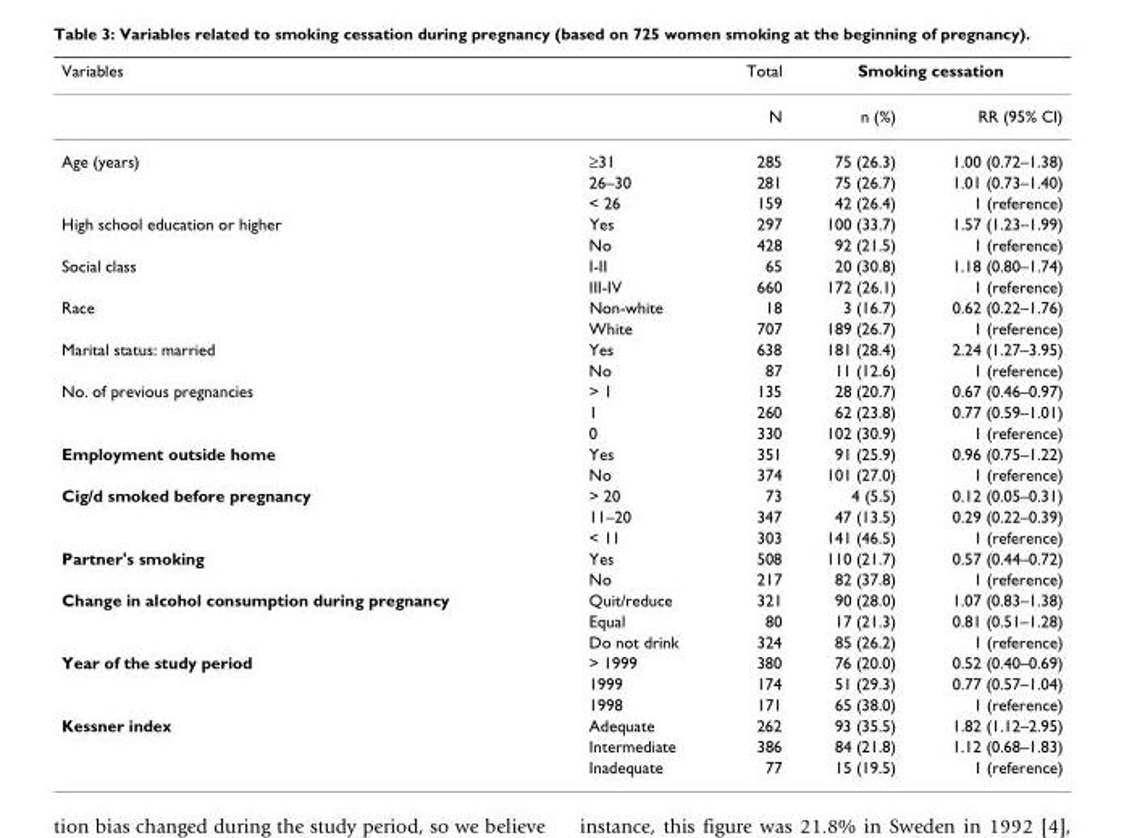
<table><thead><tr><td rowspan="2">Variables</td><td rowspan="2"></td><td rowspan="2">Total N</td><td colspan="2">Smoking cessation</td></tr><tr><td>n (%)</td><td>RR (95% CI)</td></tr></thead><tbody><tr><td rowspan="3">Age (years)</td><td>≥31</td><td>285</td><td>75 (26.3)</td><td>1.00 (0.72–1.38)</td></tr><tr><td>26–30</td><td>281</td><td>75 (26.7)</td><td>1.01 (0.73–1.40)</td></tr><tr><td>&lt; 26</td><td>159</td><td>42 (26.4)</td><td>1 (reference)</td></tr><tr><td rowspan="2">High school education or higher</td><td>Yes</td><td>297</td><td>100 (33.7)</td><td>1.57 (1.23–1.99)</td></tr><tr><td>No</td><td>428</td><td>92 (21.5)</td><td>1 (reference)</td></tr><tr><td rowspan="2">Social class</td><td>I-II</td><td>65</td><td>20 (30.8)</td><td>1.18 (0.80–1.74)</td></tr><tr><td>III-IV</td><td>660</td><td>172 (26.1)</td><td>1 (reference)</td></tr><tr><td rowspan="2">Race</td><td>Non-white</td><td>18</td><td>3 (16.7)</td><td>0.62 (0.22–1.76)</td></tr><tr><td>White</td><td>707</td><td>189 (26.7)</td><td>1 (reference)</td></tr><tr><td rowspan="2">Marital status: married</td><td>Yes</td><td>638</td><td>181 (28.4)</td><td>2.24 (1.27–3.95)</td></tr><tr><td>No</td><td>87</td><td>11 (12.6)</td><td>1 (reference)</td></tr><tr><td rowspan="3">No. of previous pregnancies</td><td>&gt; 1</td><td>135</td><td>28 (20.7)</td><td>0.67 (0.46–0.97)</td></tr><tr><td>1</td><td>260</td><td>62 (23.8)</td><td>0.77 (0.59–1.01)</td></tr><tr><td>0</td><td>330</td><td>102 (30.9)</td><td>1 (reference)</td></tr><tr><td rowspan="2">Employment outside home</td><td>Yes</td><td>351</td><td>91 (25.9)</td><td>0.96 (0.75–1.22)</td></tr><tr><td>No</td><td>374</td><td>101 (27.0)</td><td>1 (reference)</td></tr><tr><td rowspan="3">Cig/d smoked before pregnancy</td><td>&gt; 20</td><td>73</td><td>4 (5.5)</td><td>0.12 (0.05–0.31)</td></tr><tr><td>11–20</td><td>347</td><td>47 (13.5)</td><td>0.29 (0.22–0.39)</td></tr><tr><td>&lt; 11</td><td>303</td><td>141 (46.5)</td><td>1 (reference)</td></tr><tr><td rowspan="2">Partner&#x27;s smoking</td><td>Yes</td><td>508</td><td>110 (21.7)</td><td>0.57 (0.44–0.72)</td></tr><tr><td>No</td><td>217</td><td>82 (37.8)</td><td>1 (reference)</td></tr><tr><td rowspan="3">Change in alcohol consumption during pregnancy</td><td>Quit/reduce</td><td>321</td><td>90 (28.0)</td><td>1.07 (0.83–1.38)</td></tr><tr><td>Equal</td><td>80</td><td>17 (21.3)</td><td>0.81 (0.51–1.28)</td></tr><tr><td>Do not drink</td><td>324</td><td>85 (26.2)</td><td>1 (reference)</td></tr><tr><td rowspan="3">Year of the study period</td><td>&gt; 1999</td><td>380</td><td>76 (20.0)</td><td>0.52 (0.40–0.69)</td></tr><tr><td>1999</td><td>174</td><td>51 (29.3)</td><td>0.77 (0.57–1.04)</td></tr><tr><td>1998</td><td>171</td><td>65 (38.0)</td><td>1 (reference)</td></tr><tr><td rowspan="3">Kessner index</td><td>Adequate</td><td>262</td><td>93 (35.5)</td><td>1.82 (1.12–2.95)</td></tr><tr><td>Intermediate</td><td>386</td><td>84 (21.8)</td><td>1.12 (0.68–1.83)</td></tr><tr><td>Inadequate</td><td>77</td><td>15 (19.5)</td><td>1 (reference)</td></tr></tbody></table>